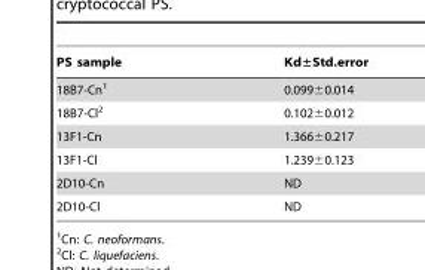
<table><thead><tr><td>PS sample</td><td>Kd±Std.error</td></tr></thead><tbody><tr><td>18B7-Cn<sup>1</sup></td><td>0.099±0.014</td></tr><tr><td>18B7-Cl<sup>2</sup></td><td>0.102±0.012</td></tr><tr><td>13F1-Cn</td><td>1.366±0.217</td></tr><tr><td>13F1-Cl</td><td>1.239±0.123</td></tr><tr><td>2D10-Cn</td><td>ND</td></tr><tr><td>2D10-Cl</td><td>ND</td></tr></tbody></table>